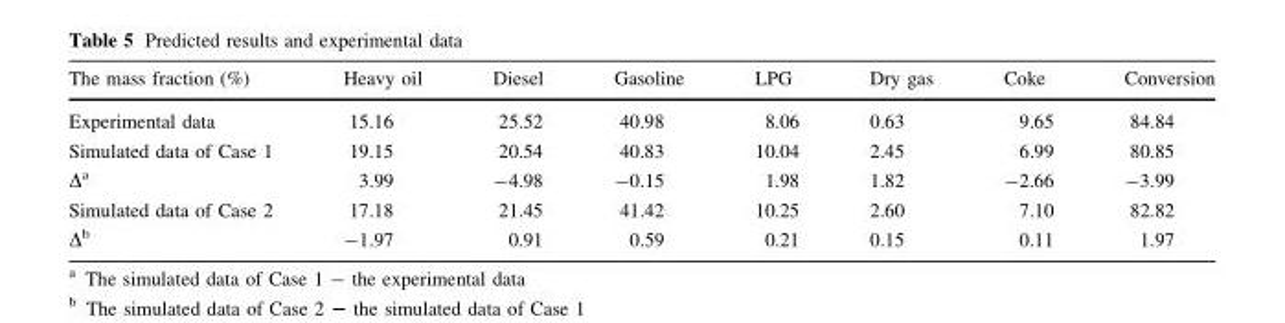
<table><thead><tr><td>The mass fraction (%)</td><td>Heavy oil</td><td>Diesel</td><td>Gasoline</td><td>LPG</td><td>Dry gas</td><td>Coke</td><td>Conversion</td></tr></thead><tbody><tr><td>Experimental data</td><td>15.16</td><td>25.52</td><td>40.98</td><td>8.06</td><td>0.63</td><td>9.65</td><td>84.84</td></tr><tr><td>Simulated data of Case 1</td><td>19.15</td><td>20.54</td><td>40.83</td><td>10.04</td><td>2.45</td><td>6.99</td><td>80.85</td></tr><tr><td>Δ<sup>a</sup></td><td>3.99</td><td>-4.98</td><td>-0.15</td><td>1.98</td><td>1.82</td><td>-2.66</td><td>-3.99</td></tr><tr><td>Simulated data of Case 2</td><td>17.18</td><td>21.45</td><td>41.42</td><td>10.25</td><td>2.60</td><td>7.10</td><td>82.82</td></tr><tr><td>Δ<sup>b</sup></td><td>-1.97</td><td>0.91</td><td>0.59</td><td>0.21</td><td>0.15</td><td>0.11</td><td>1.97</td></tr></tbody></table>